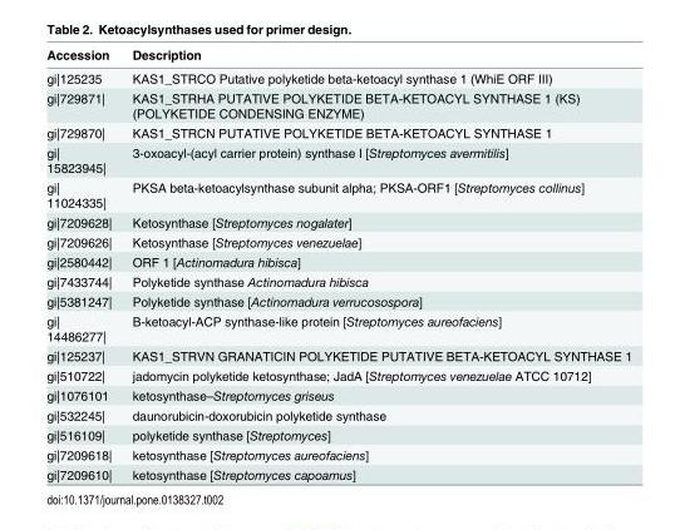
<table><thead><tr><td>Accession</td><td>Description</td></tr></thead><tbody><tr><td>gi|125235</td><td>KAS1_STRCO Putative polyketide beta-ketoacyl synthase 1 (WhiE ORF III)</td></tr><tr><td>gi|729871|</td><td>KAS1_STRHA PUTATIVE POLYKETIDE BETA-KETOACYL SYNTHASE 1 (KS) (POLYKETIDE CONDENSING ENZYME)</td></tr><tr><td>gi|729870|</td><td>KAS1_STRCN PUTATIVE POLYKETIDE BETA-KETOACYL SYNTHASE 1</td></tr><tr><td>gi| 15823945|</td><td>3-oxoacyl-(acyl carrier protein) synthase I [Streptomyces avermitilis]</td></tr><tr><td>gi| 11024335|</td><td>PKSA beta-ketoacylsynthase subunit alpha; PKSA-ORF1 [Streptomyces collinus]</td></tr><tr><td>gi|7209628|</td><td>Ketosynthase [Streptomyces nogalater]</td></tr><tr><td>gi|7209626|</td><td>Ketosynthase [Streptomyces venezuelae]</td></tr><tr><td>gi|2580442|</td><td>ORF 1 [Actinomadura hibisca]</td></tr><tr><td>gi|7433744|</td><td>Polyketide synthase Actinomadura hibisca</td></tr><tr><td>gi|5381247|</td><td>Polyketide synthase [Actinomadura verrucosospora]</td></tr><tr><td>gi| 14486277|</td><td>B-ketoacyl-ACP synthase-like protein [Streptomyces aureofaciens]</td></tr><tr><td>gi|125237|</td><td>KAS1_STRVN GRANATICIN POLYKETIDE PUTATIVE BETA-KETOACYL SYNTHASE 1</td></tr><tr><td>gi|510722|</td><td>jadomycin polyketide ketosynthase; JadA [Streptomyces venezuelae ATCC 10712]</td></tr><tr><td>gi|1076101</td><td>ketosynthase–Streptomyces griseus</td></tr><tr><td>gi|532245|</td><td>daunorubicin-doxorubicin polyketide synthase</td></tr><tr><td>gi|516109|</td><td>polyketide synthase [Streptomyces]</td></tr><tr><td>gi|7209618|</td><td>ketosynthase [Streptomyces aureofaciens]</td></tr><tr><td>gi|7209610|</td><td>ketosynthase [Streptomyces capoamus]</td></tr></tbody></table>